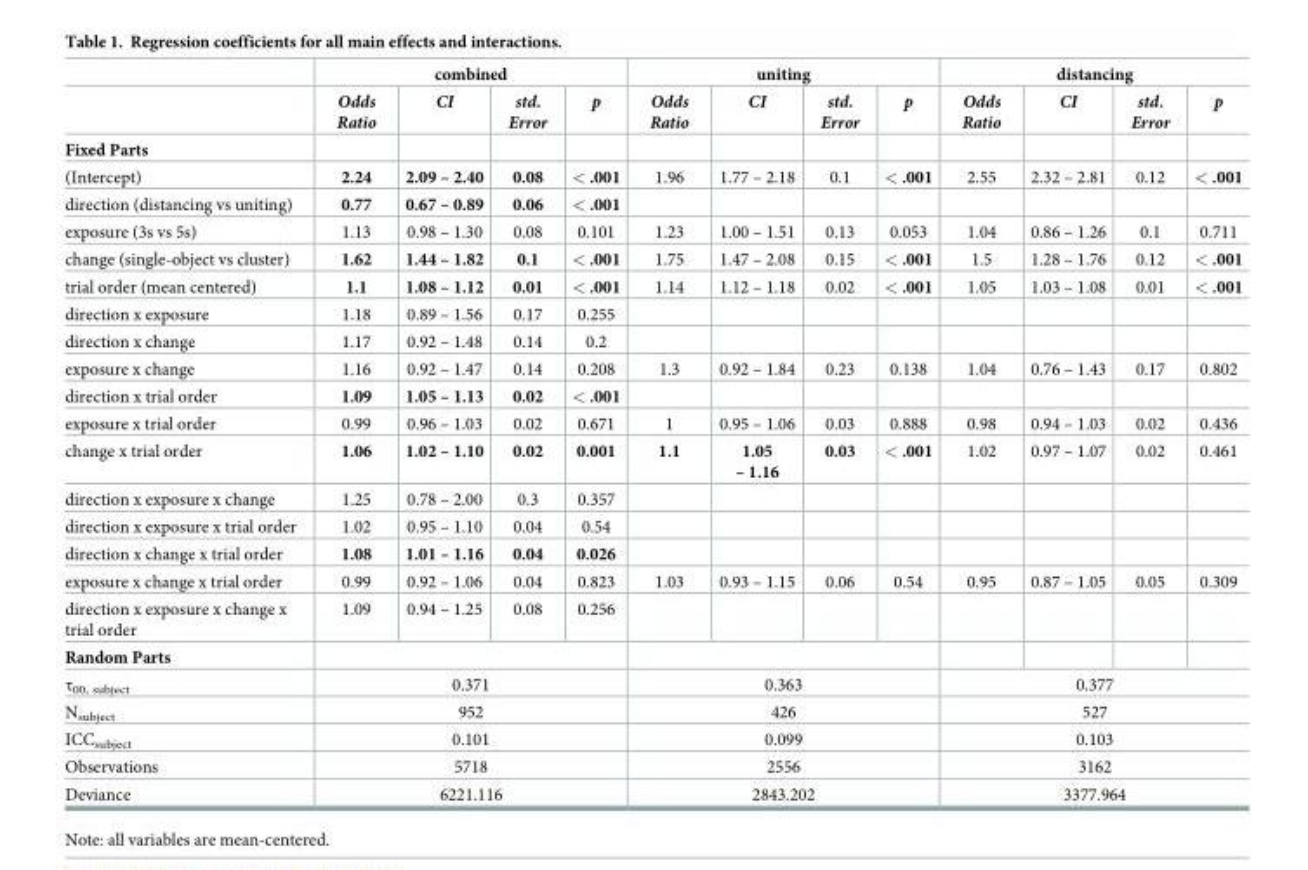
<table><thead><tr><td rowspan="2"></td><td colspan="4">combined</td><td colspan="4">uniting</td><td colspan="4">distancing</td></tr><tr><td>Odds Ratio</td><td>CI</td><td>std. Error</td><td>p</td><td>Odds Ratio</td><td>CI</td><td>std. Error</td><td>p</td><td>Odds Ratio</td><td>CI</td><td>std. Error</td><td>p</td></tr></thead><tbody><tr><td colspan="13">Fixed Parts</td></tr><tr><td>(Intercept)</td><td>2.24</td><td>2.09 – 2.40</td><td>0.08</td><td>&lt; .001</td><td>1.96</td><td>1.77 – 2.18</td><td>0.1</td><td>&lt; .001</td><td>2.55</td><td>2.32 – 2.81</td><td>0.12</td><td>&lt; .001</td></tr><tr><td>direction (distancing vs uniting)</td><td>0.77</td><td>0.67 – 0.89</td><td>0.06</td><td>&lt; .001</td><td></td><td></td><td></td><td></td><td></td><td></td><td></td><td></td></tr><tr><td>exposure (3s vs 5s)</td><td>1.13</td><td>0.98 – 1.30</td><td>0.08</td><td>0.101</td><td>1.23</td><td>1.00 – 1.51</td><td>0.13</td><td>0.053</td><td>1.04</td><td>0.86 – 1.26</td><td>0.1</td><td>0.711</td></tr><tr><td>change (single-object vs cluster)</td><td>1.62</td><td>1.44 – 1.82</td><td>0.1</td><td>&lt; .001</td><td>1.75</td><td>1.47 – 2.08</td><td>0.15</td><td>&lt; .001</td><td>1.5</td><td>1.28 – 1.76</td><td>0.12</td><td>&lt; .001</td></tr><tr><td>trial order (mean centered)</td><td>1.1</td><td>1.08 – 1.12</td><td>0.01</td><td>&lt; .001</td><td>1.14</td><td>1.12 – 1.18</td><td>0.02</td><td>&lt; .001</td><td>1.05</td><td>1.03 – 1.08</td><td>0.01</td><td>&lt; .001</td></tr><tr><td>direction x exposure</td><td>1.18</td><td>0.89 – 1.56</td><td>0.17</td><td>0.255</td><td></td><td></td><td></td><td></td><td></td><td></td><td></td><td></td></tr><tr><td>direction x change</td><td>1.17</td><td>0.92 – 1.48</td><td>0.14</td><td>0.2</td><td></td><td></td><td></td><td></td><td></td><td></td><td></td><td></td></tr><tr><td>exposure x change</td><td>1.16</td><td>0.92 – 1.47</td><td>0.14</td><td>0.208</td><td>1.3</td><td>0.92 – 1.84</td><td>0.23</td><td>0.138</td><td>1.04</td><td>0.76 – 1.43</td><td>0.17</td><td>0.802</td></tr><tr><td>direction x trial order</td><td>1.09</td><td>1.05 – 1.13</td><td>0.02</td><td>&lt; .001</td><td></td><td></td><td></td><td></td><td></td><td></td><td></td><td></td></tr><tr><td>exposure x trial order</td><td>0.99</td><td>0.96 – 1.03</td><td>0.02</td><td>0.671</td><td>1</td><td>0.95 – 1.06</td><td>0.03</td><td>0.888</td><td>0.98</td><td>0.94 – 1.03</td><td>0.02</td><td>0.436</td></tr><tr><td>change x trial order</td><td>1.06</td><td>1.02 – 1.10</td><td>0.02</td><td>0.001</td><td>1.1</td><td>1.05 – 1.16</td><td>0.03</td><td>&lt; .001</td><td>1.02</td><td>0.97 – 1.07</td><td>0.02</td><td>0.461</td></tr><tr><td>direction x exposure x change</td><td>1.25</td><td>0.78 – 2.00</td><td>0.3</td><td>0.357</td><td></td><td></td><td></td><td></td><td></td><td></td><td></td><td></td></tr><tr><td>direction x exposure x trial order</td><td>1.02</td><td>0.95 – 1.10</td><td>0.04</td><td>0.54</td><td></td><td></td><td></td><td></td><td></td><td></td><td></td><td></td></tr><tr><td>direction x change x trial order</td><td>1.08</td><td>1.01 – 1.16</td><td>0.04</td><td>0.026</td><td></td><td></td><td></td><td></td><td></td><td></td><td></td><td></td></tr><tr><td>exposure x change x trial order</td><td>0.99</td><td>0.92 – 1.06</td><td>0.04</td><td>0.823</td><td>1.03</td><td>0.93 – 1.15</td><td>0.06</td><td>0.54</td><td>0.95</td><td>0.87 – 1.05</td><td>0.05</td><td>0.309</td></tr><tr><td>direction x exposure x change x trial order</td><td>1.09</td><td>0.94 – 1.25</td><td>0.08</td><td>0.256</td><td></td><td></td><td></td><td></td><td></td><td></td><td></td><td></td></tr><tr><td colspan="13">Random Parts</td></tr><tr><td>τ<sub>00, subject</sub></td><td colspan="4">0.371</td><td colspan="4">0.363</td><td colspan="4">0.377</td></tr><tr><td>N<sub>subject</sub></td><td colspan="4">952</td><td colspan="4">426</td><td colspan="4">527</td></tr><tr><td>ICC<sub>subject</sub></td><td colspan="4">0.101</td><td colspan="4">0.099</td><td colspan="4">0.103</td></tr><tr><td>Observations</td><td colspan="4">5718</td><td colspan="4">2556</td><td colspan="4">3162</td></tr><tr><td>Deviance</td><td colspan="4">6221.116</td><td colspan="4">2843.202</td><td colspan="4">3377.964</td></tr></tbody></table>